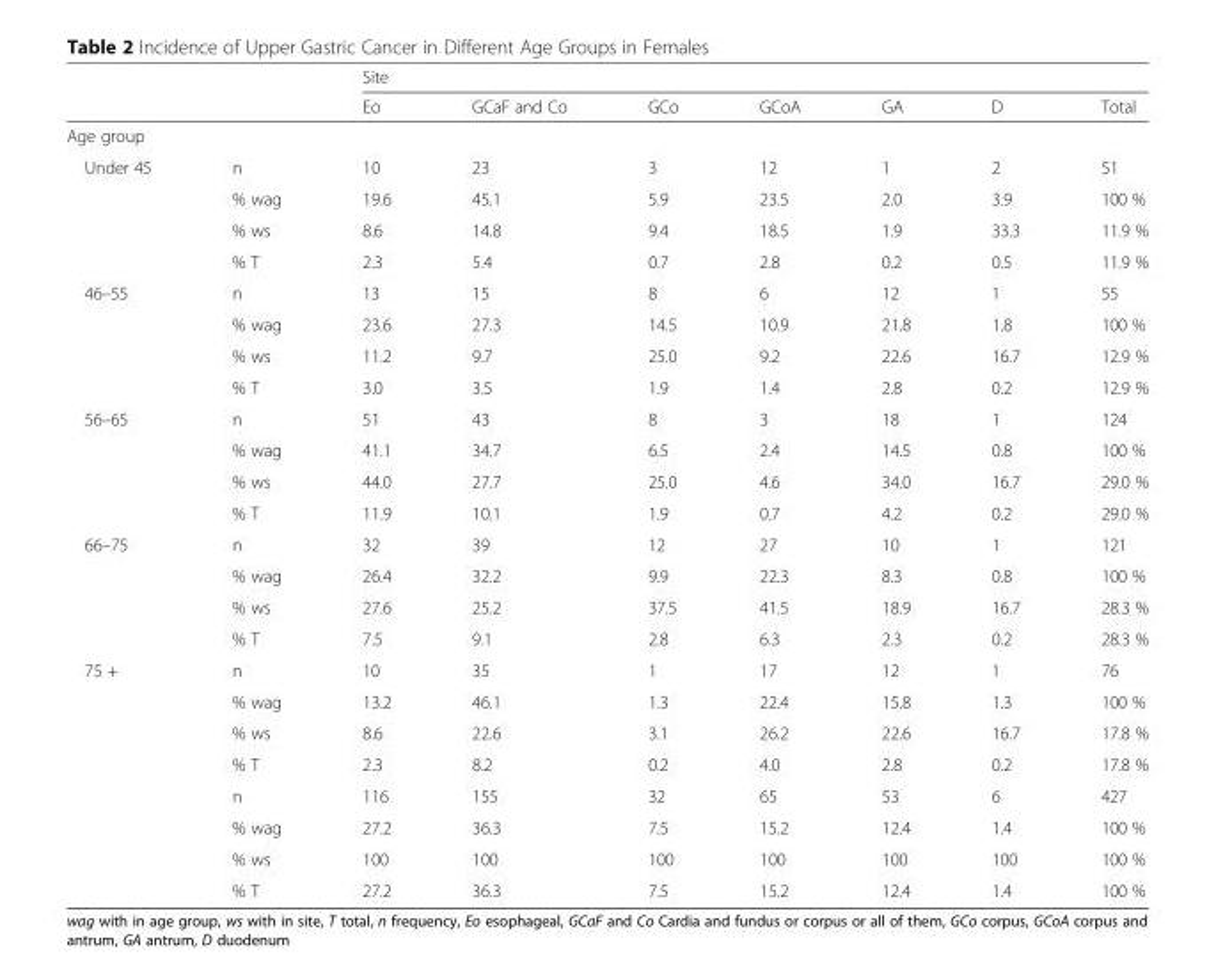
<table><thead><tr><td rowspan="2"></td><td rowspan="2"></td><td colspan="7">Site</td></tr><tr><td>Eo</td><td>GCaF and Co</td><td>GCo</td><td>GCoA</td><td>GA</td><td>D</td><td>Total</td></tr></thead><tbody><tr><td colspan="9">Age group</td></tr><tr><td rowspan="4">Under 45</td><td>n</td><td>10</td><td>23</td><td>3</td><td>12</td><td>1</td><td>2</td><td>51</td></tr><tr><td>% wag</td><td>19.6</td><td>45.1</td><td>5.9</td><td>23.5</td><td>2.0</td><td>3.9</td><td>100 %</td></tr><tr><td>% ws</td><td>8.6</td><td>14.8</td><td>9.4</td><td>18.5</td><td>1.9</td><td>33.3</td><td>11.9 %</td></tr><tr><td>% T</td><td>2.3</td><td>5.4</td><td>0.7</td><td>2.8</td><td>0.2</td><td>0.5</td><td>11.9 %</td></tr><tr><td rowspan="4">46–55</td><td>n</td><td>13</td><td>15</td><td>8</td><td>6</td><td>12</td><td>1</td><td>55</td></tr><tr><td>% wag</td><td>23.6</td><td>27.3</td><td>14.5</td><td>10.9</td><td>21.8</td><td>1.8</td><td>100 %</td></tr><tr><td>% ws</td><td>11.2</td><td>9.7</td><td>25.0</td><td>9.2</td><td>22.6</td><td>16.7</td><td>12.9 %</td></tr><tr><td>% T</td><td>3.0</td><td>3.5</td><td>1.9</td><td>1.4</td><td>2.8</td><td>0.2</td><td>12.9 %</td></tr><tr><td rowspan="4">56–65</td><td>n</td><td>51</td><td>43</td><td>8</td><td>3</td><td>18</td><td>1</td><td>124</td></tr><tr><td>% wag</td><td>41.1</td><td>34.7</td><td>6.5</td><td>2.4</td><td>14.5</td><td>0.8</td><td>100 %</td></tr><tr><td>% ws</td><td>44.0</td><td>27.7</td><td>25.0</td><td>4.6</td><td>34.0</td><td>16.7</td><td>29.0 %</td></tr><tr><td>% T</td><td>11.9</td><td>10.1</td><td>1.9</td><td>0.7</td><td>4.2</td><td>0.2</td><td>29.0 %</td></tr><tr><td rowspan="4">66–75</td><td>n</td><td>32</td><td>39</td><td>12</td><td>27</td><td>10</td><td>1</td><td>121</td></tr><tr><td>% wag</td><td>26.4</td><td>32.2</td><td>9.9</td><td>22.3</td><td>8.3</td><td>0.8</td><td>100 %</td></tr><tr><td>% ws</td><td>27.6</td><td>25.2</td><td>37.5</td><td>41.5</td><td>18.9</td><td>16.7</td><td>28.3 %</td></tr><tr><td>% T</td><td>7.5</td><td>9.1</td><td>2.8</td><td>6.3</td><td>2.3</td><td>0.2</td><td>28.3 %</td></tr><tr><td rowspan="8">75 +</td><td>n</td><td>10</td><td>35</td><td>1</td><td>17</td><td>12</td><td>1</td><td>76</td></tr><tr><td>% wag</td><td>13.2</td><td>46.1</td><td>1.3</td><td>22.4</td><td>15.8</td><td>1.3</td><td>100 %</td></tr><tr><td>% ws</td><td>8.6</td><td>22.6</td><td>3.1</td><td>26.2</td><td>22.6</td><td>16.7</td><td>17.8 %</td></tr><tr><td>% T</td><td>2.3</td><td>8.2</td><td>0.2</td><td>4.0</td><td>2.8</td><td>0.2</td><td>17.8 %</td></tr><tr><td>n</td><td>116</td><td>155</td><td>32</td><td>65</td><td>53</td><td>6</td><td>427</td></tr><tr><td>% wag</td><td>27.2</td><td>36.3</td><td>7.5</td><td>15.2</td><td>12.4</td><td>1.4</td><td>100 %</td></tr><tr><td>% ws</td><td>100</td><td>100</td><td>100</td><td>100</td><td>100</td><td>100</td><td>100 %</td></tr><tr><td>% T</td><td>27.2</td><td>36.3</td><td>7.5</td><td>15.2</td><td>12.4</td><td>1.4</td><td>100 %</td></tr></tbody></table>